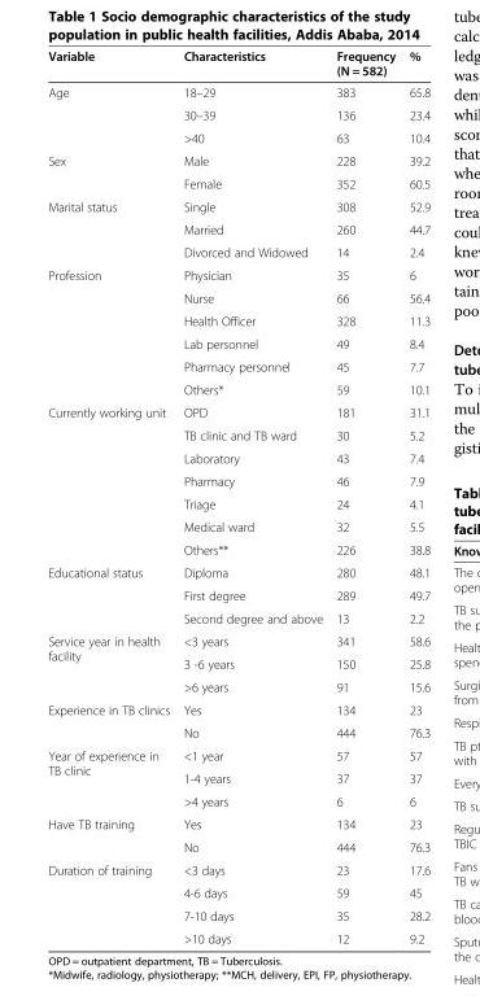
<table><thead><tr><td>Variable</td><td>Characteristics</td><td>Frequency (N = 582)</td><td>%</td></tr></thead><tbody><tr><td rowspan="3">Age</td><td>18–29</td><td>383</td><td>65.8</td></tr><tr><td>30–39</td><td>136</td><td>23.4</td></tr><tr><td>&gt;40</td><td>63</td><td>10.4</td></tr><tr><td rowspan="2">Sex</td><td>Male</td><td>228</td><td>39.2</td></tr><tr><td>Female</td><td>352</td><td>60.5</td></tr><tr><td rowspan="3">Marital status</td><td>Single</td><td>308</td><td>52.9</td></tr><tr><td>Married</td><td>260</td><td>44.7</td></tr><tr><td>Divorced and Widowed</td><td>14</td><td>2.4</td></tr><tr><td rowspan="6">Profession</td><td>Physician</td><td>35</td><td>6</td></tr><tr><td>Nurse</td><td>66</td><td>56.4</td></tr><tr><td>Health Officer</td><td>328</td><td>11.3</td></tr><tr><td>Lab personnel</td><td>49</td><td>8.4</td></tr><tr><td>Pharmacy personnel</td><td>45</td><td>7.7</td></tr><tr><td>Others*</td><td>59</td><td>10.1</td></tr><tr><td rowspan="7">Currently working unit</td><td>OPD</td><td>181</td><td>31.1</td></tr><tr><td>TB clinic and TB ward</td><td>30</td><td>5.2</td></tr><tr><td>Laboratory</td><td>43</td><td>7.4</td></tr><tr><td>Pharmacy</td><td>46</td><td>7.9</td></tr><tr><td>Triage</td><td>24</td><td>4.1</td></tr><tr><td>Medical ward</td><td>32</td><td>5.5</td></tr><tr><td>Others**</td><td>226</td><td>38.8</td></tr><tr><td rowspan="3">Educational status</td><td>Diploma</td><td>280</td><td>48.1</td></tr><tr><td>First degree</td><td>289</td><td>49.7</td></tr><tr><td>Second degree and above</td><td>13</td><td>2.2</td></tr><tr><td rowspan="3">Service year in health facility</td><td>&lt;3 years</td><td>341</td><td>58.6</td></tr><tr><td>3 -6 years</td><td>150</td><td>25.8</td></tr><tr><td>&gt;6 years</td><td>91</td><td>15.6</td></tr><tr><td rowspan="2">Experience in TB clinics</td><td>Yes</td><td>134</td><td>23</td></tr><tr><td>No</td><td>444</td><td>76.3</td></tr><tr><td rowspan="3">Year of experience in TB clinic</td><td>&lt;1 year</td><td>57</td><td>57</td></tr><tr><td>1-4 years</td><td>37</td><td>37</td></tr><tr><td>&gt;4 years</td><td>6</td><td>6</td></tr><tr><td rowspan="2">Have TB training</td><td>Yes</td><td>134</td><td>23</td></tr><tr><td>No</td><td>444</td><td>76.3</td></tr><tr><td rowspan="4">Duration of training</td><td>&lt;3 days</td><td>23</td><td>17.6</td></tr><tr><td>4-6 days</td><td>59</td><td>45</td></tr><tr><td>7-10 days</td><td>35</td><td>28.2</td></tr><tr><td>&gt;10 days</td><td>12</td><td>9.2</td></tr></tbody></table>